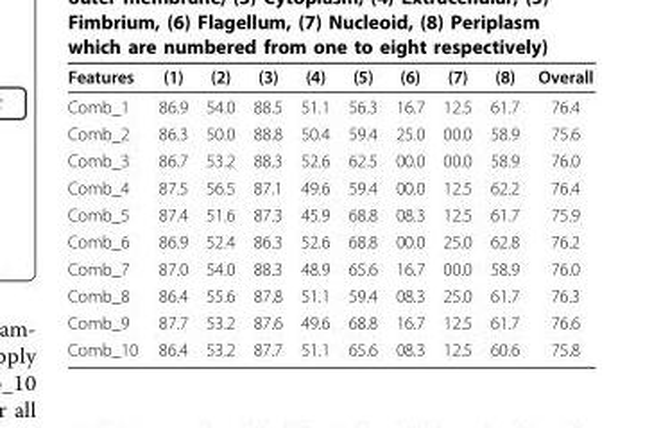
<table><thead><tr><td>Features</td><td>(1)</td><td>(2)</td><td>(3)</td><td>(4)</td><td>(5)</td><td>(6)</td><td>(7)</td><td>(8)</td><td>Overall</td></tr></thead><tbody><tr><td>Comb_1</td><td>86.9</td><td>54.0</td><td>88.5</td><td>51.1</td><td>56.3</td><td>16.7</td><td>12.5</td><td>61.7</td><td>76.4</td></tr><tr><td>Comb_2</td><td>86.3</td><td>50.0</td><td>88.8</td><td>50.4</td><td>59.4</td><td>25.0</td><td>00.0</td><td>58.9</td><td>75.6</td></tr><tr><td>Comb_3</td><td>86.7</td><td>53.2</td><td>88.3</td><td>52.6</td><td>62.5</td><td>00.0</td><td>00.0</td><td>58.9</td><td>76.0</td></tr><tr><td>Comb_4</td><td>87.5</td><td>56.5</td><td>87.1</td><td>49.6</td><td>59.4</td><td>00.0</td><td>12.5</td><td>62.2</td><td>76.4</td></tr><tr><td>Comb_5</td><td>87.4</td><td>51.6</td><td>87.3</td><td>45.9</td><td>68.8</td><td>08.3</td><td>12.5</td><td>61.7</td><td>75.9</td></tr><tr><td>Comb_6</td><td>86.9</td><td>52.4</td><td>86.3</td><td>52.6</td><td>68.8</td><td>00.0</td><td>25.0</td><td>62.8</td><td>76.2</td></tr><tr><td>Comb_7</td><td>87.0</td><td>54.0</td><td>88.3</td><td>48.9</td><td>65.6</td><td>16.7</td><td>00.0</td><td>58.9</td><td>76.0</td></tr><tr><td>Comb_8</td><td>86.4</td><td>55.6</td><td>87.8</td><td>51.1</td><td>59.4</td><td>08.3</td><td>25.0</td><td>61.7</td><td>76.3</td></tr><tr><td>Comb_9</td><td>87.7</td><td>53.2</td><td>87.6</td><td>49.6</td><td>68.8</td><td>16.7</td><td>12.5</td><td>61.7</td><td>76.6</td></tr><tr><td>Comb_10</td><td>86.4</td><td>53.2</td><td>87.7</td><td>51.1</td><td>65.6</td><td>08.3</td><td>12.5</td><td>60.6</td><td>75.8</td></tr></tbody></table>